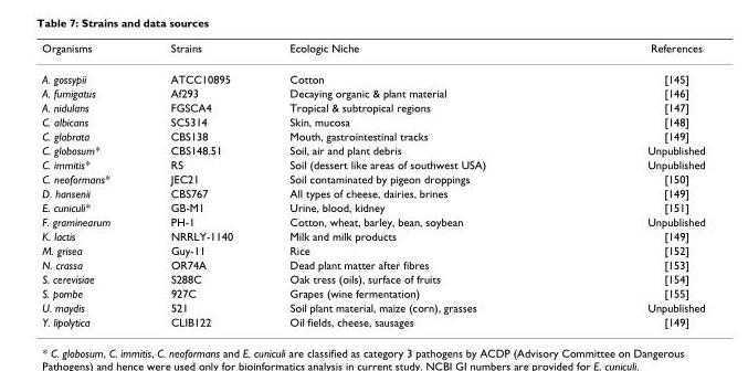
<table><thead><tr><td>Organisms</td><td>Strains</td><td>Ecologic Niche</td><td>References</td></tr></thead><tbody><tr><td>A. gossypii</td><td>ATCC10895</td><td>Cotton</td><td>[145]</td></tr><tr><td>A. fumigatus</td><td>Af293</td><td>Decaying organic &amp; plant material</td><td>[146]</td></tr><tr><td>A. nidulans</td><td>FGSCA4</td><td>Tropical &amp; subtropical regions</td><td>[147]</td></tr><tr><td>C. albicans</td><td>SC5314</td><td>Skin, mucosa</td><td>[148]</td></tr><tr><td>C. glabrata</td><td>CBS138</td><td>Mouth, gastrointestinal tracks</td><td>[149]</td></tr><tr><td>C. globosum*</td><td>CBS148.51</td><td>Soil, air and plant debris</td><td>Unpublished</td></tr><tr><td>C. immitis*</td><td>RS</td><td>Soil (dessert like areas of southwest USA)</td><td>Unpublished</td></tr><tr><td>C. neoformans*</td><td>JEC21</td><td>Soil contaminated by pigeon droppings</td><td>[150]</td></tr><tr><td>D. hansenii</td><td>CBS767</td><td>All types of cheese, dairies, brines</td><td>[149]</td></tr><tr><td>E. cuniculi*</td><td>GB-M1</td><td>Urine, blood, kidney</td><td>[151]</td></tr><tr><td>F. graminearum</td><td>PH-1</td><td>Cotton, wheat, barley, bean, soybean</td><td>Unpublished</td></tr><tr><td>K. lactis</td><td>NRRLY-1140</td><td>Milk and milk products</td><td>[149]</td></tr><tr><td>M. grisea</td><td>Guy-11</td><td>Rice</td><td>[152]</td></tr><tr><td>N. crassa</td><td>OR74A</td><td>Dead plant matter after fibres</td><td>[153]</td></tr><tr><td>S. cerevisiae</td><td>S288C</td><td>Oak tress (oils), surface of fruits</td><td>[154]</td></tr><tr><td>S. pombe</td><td>927C</td><td>Grapes (wine fermentation)</td><td>[155]</td></tr><tr><td>U. maydis</td><td>521</td><td>Soil plant material, maize (corn), grasses</td><td>Unpublished</td></tr><tr><td>Y. lipolytica</td><td>CLIB122</td><td>Oil fields, cheese, sausages</td><td>[149]</td></tr></tbody></table>